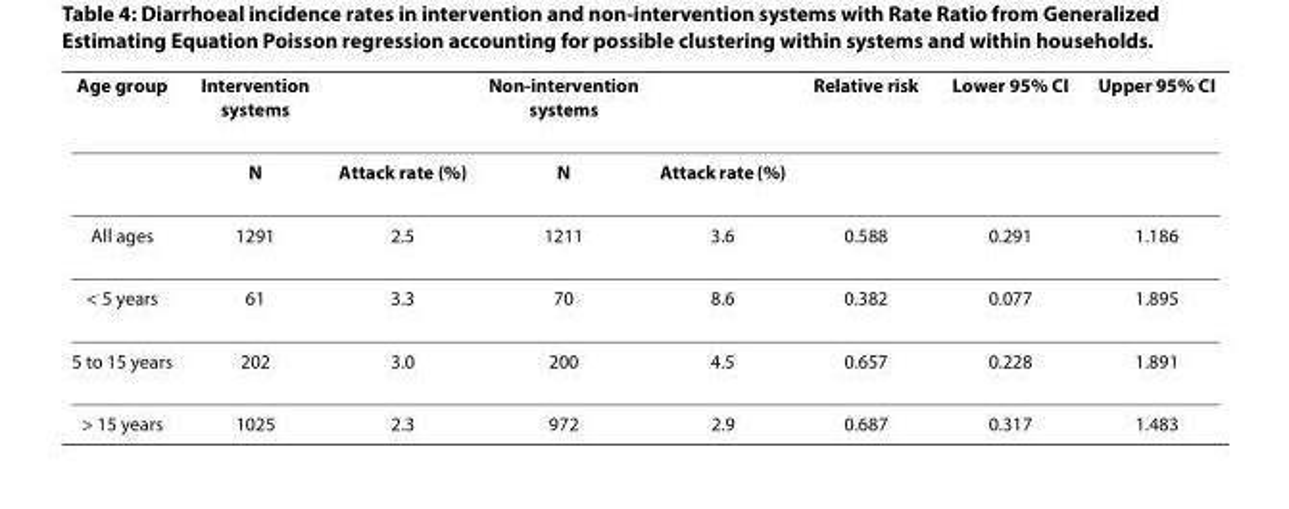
<table><thead><tr><td>Age group</td><td>Intervention systems</td><td></td><td>Non-intervention systems</td><td></td><td>Relative risk</td><td>Lower 95% CI</td><td>Upper 95% CI</td></tr></thead><tbody><tr><td></td><td>N</td><td>Attack rate (%)</td><td>N</td><td>Attack rate (%)</td><td></td><td></td><td></td></tr><tr><td>All ages</td><td>1291</td><td>2.5</td><td>1211</td><td>3.6</td><td>0.588</td><td>0.291</td><td>1.186</td></tr><tr><td>&lt; 5 years</td><td>61</td><td>3.3</td><td>70</td><td>8.6</td><td>0.382</td><td>0.077</td><td>1.895</td></tr><tr><td>5 to 15 years</td><td>202</td><td>3.0</td><td>200</td><td>4.5</td><td>0.657</td><td>0.228</td><td>1.891</td></tr><tr><td>&gt; 15 years</td><td>1025</td><td>2.3</td><td>972</td><td>2.9</td><td>0.687</td><td>0.317</td><td>1.483</td></tr></tbody></table>